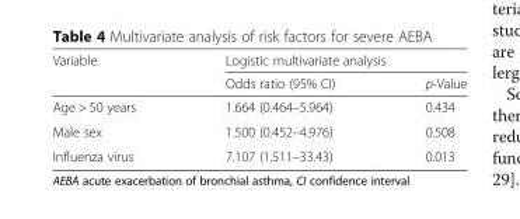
<table><thead><tr><td rowspan="2">Variable</td><td colspan="2">Logistic multivariate analysis</td></tr><tr><td>Odds ratio (95% CI)</td><td>p-Value</td></tr></thead><tbody><tr><td>Age &gt; 50 years</td><td>1.664 (0.464–5.964)</td><td>0.434</td></tr><tr><td>Male sex</td><td>1.500 (0.452–4.976)</td><td>0.508</td></tr><tr><td>Influenza virus</td><td>7.107 (1.511–33.43)</td><td>0.013</td></tr></tbody></table>